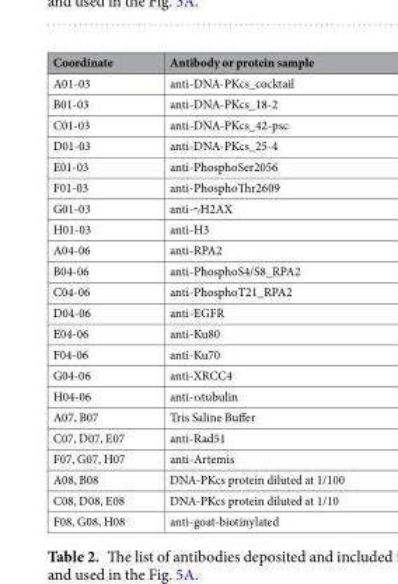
<table><thead><tr><td>Coordinate</td><td>Antibody or protein sample</td></tr></thead><tbody><tr><td>A01-03</td><td>anti-DNA-PKcs_cocktail</td></tr><tr><td>B01-03</td><td>anti-DNA-PKcs_18-2</td></tr><tr><td>C01-03</td><td>anti-DNA-PKcs_42-psc</td></tr><tr><td>D01-03</td><td>anti-DNA-PKcs_25-4</td></tr><tr><td>E01-03</td><td>anti-PhosphoSer2056</td></tr><tr><td>F01-03</td><td>anti-PhosphoThr2609</td></tr><tr><td>G01-03</td><td>anti-γH2AX</td></tr><tr><td>H01-03</td><td>anti-H3</td></tr><tr><td>A04-06</td><td>anti-RPA2</td></tr><tr><td>B04-06</td><td>anti-PhosphoS4/S8_RPA2</td></tr><tr><td>C04-06</td><td>anti-PhosphoT21_RPA2</td></tr><tr><td>D04-06</td><td>anti-EGFR</td></tr><tr><td>E04-06</td><td>anti-Ku80</td></tr><tr><td>F04-06</td><td>anti-Ku70</td></tr><tr><td>G04-06</td><td>anti-XRCC4</td></tr><tr><td>H04-06</td><td>anti-αtubulin</td></tr><tr><td>A07, B07</td><td>Tris Saline Buffer</td></tr><tr><td>C07, D07, E07</td><td>anti-Rad51</td></tr><tr><td>F07, G07, H07</td><td>anti-Artemis</td></tr><tr><td>A08, B08</td><td>DNA-PKcs protein diluted at 1/100</td></tr><tr><td>C08, D08, E08</td><td>DNA-PKcs protein diluted at 1/10</td></tr><tr><td>F08, G08, H08</td><td>anti-goat-biotinylated</td></tr></tbody></table>